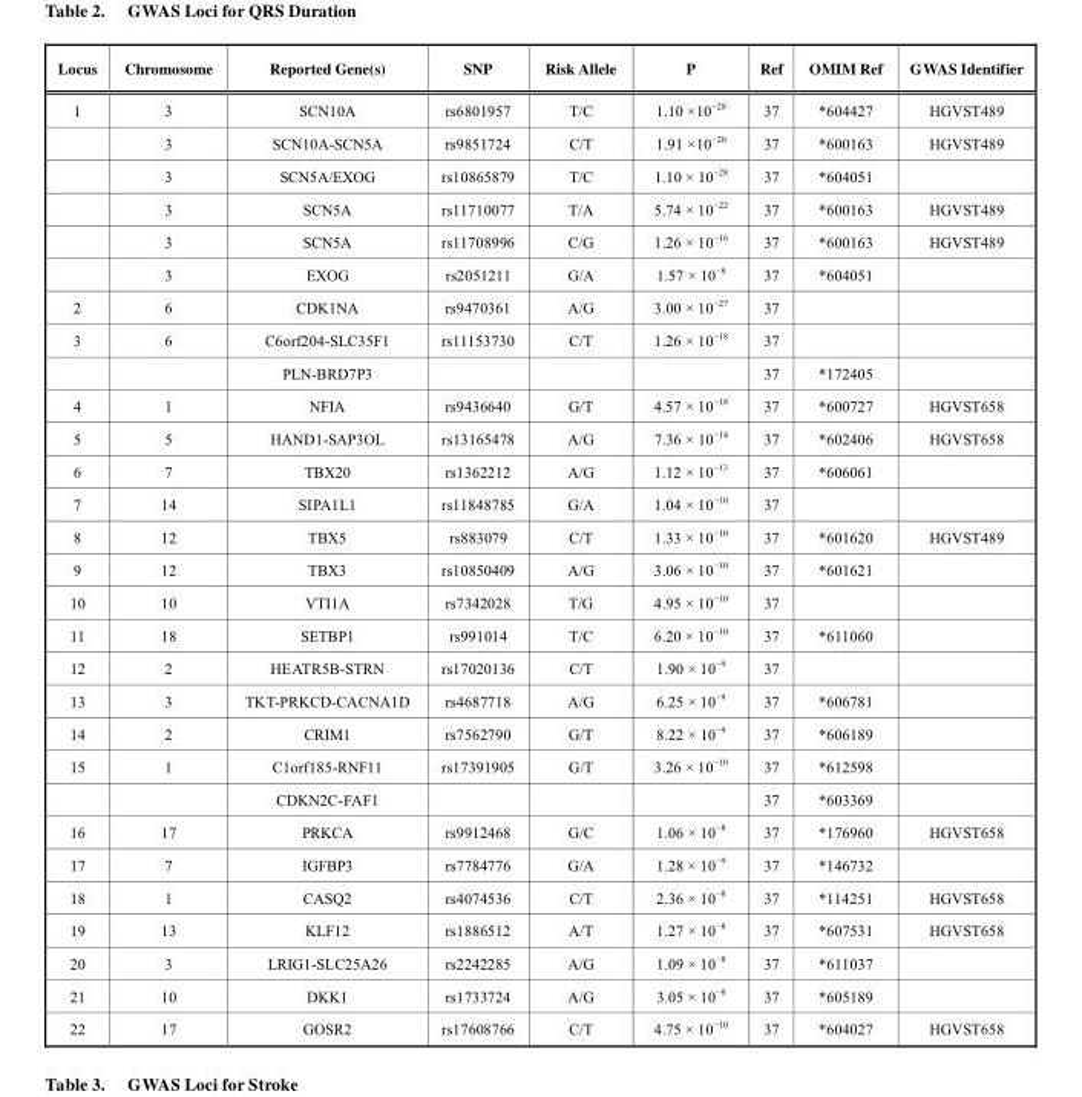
<table><thead><tr><td>Locus</td><td>Chromosome</td><td>Reported Gene(s)</td><td>SNP</td><td>Risk Allele</td><td>P</td><td>Ref</td><td>OMIM Ref</td><td>GWAS Identifier</td></tr></thead><tbody><tr><td rowspan="6">1</td><td>3</td><td>SCN10A</td><td>rs6801957</td><td>T/C</td><td>1.10 ×10<sup>–28</sup></td><td>37</td><td>*604427</td><td>HGVST489</td></tr><tr><td>3</td><td>SCN10A-SCN5A</td><td>rs9851724</td><td>C/T</td><td>1.91 ×10<sup>–20</sup></td><td>37</td><td>*600163</td><td>HGVST489</td></tr><tr><td>3</td><td>SCN5A/EXOG</td><td>rs10865879</td><td>T/C</td><td>1.10 × 10<sup>–28</sup></td><td>37</td><td>*604051</td><td></td></tr><tr><td>3</td><td>SCN5A</td><td>rs11710077</td><td>T/A</td><td>5.74 × 10<sup>–22</sup></td><td>37</td><td>*600163</td><td>HGVST489</td></tr><tr><td>3</td><td>SCN5A</td><td>rs11708996</td><td>C/G</td><td>1.26 × 10<sup>–16</sup></td><td>37</td><td>*600163</td><td>HGVST489</td></tr><tr><td>3</td><td>EXOG</td><td>rs2051211</td><td>G/A</td><td>1.57 × 10<sup>–8</sup></td><td>37</td><td>*604051</td><td></td></tr><tr><td>2</td><td>6</td><td>CDK1NA</td><td>rs9470361</td><td>A/G</td><td>3.00 × 10<sup>–27</sup></td><td>37</td><td></td><td></td></tr><tr><td rowspan="2">3</td><td>6</td><td>C6orf204-SLC35F1</td><td>rs11153730</td><td>C/T</td><td>1.26 × 10<sup>–18</sup></td><td>37</td><td></td><td></td></tr><tr><td></td><td>PLN-BRD7P3</td><td></td><td></td><td></td><td>37</td><td>*172405</td><td></td></tr><tr><td>4</td><td>1</td><td>NFIA</td><td>rs9436640</td><td>G/T</td><td>4.57 × 10<sup>–18</sup></td><td>37</td><td>*600727</td><td>HGVST658</td></tr><tr><td>5</td><td>5</td><td>HAND1-SAP3OL</td><td>rs13165478</td><td>A/G</td><td>7.36 × 10<sup>–14</sup></td><td>37</td><td>*602406</td><td>HGVST658</td></tr><tr><td>6</td><td>7</td><td>TBX20</td><td>rs1362212</td><td>A/G</td><td>1.12 × 10<sup>–13</sup></td><td>37</td><td>*606061</td><td></td></tr><tr><td>7</td><td>14</td><td>SIPA1L1</td><td>rs11848785</td><td>G/A</td><td>1.04 × 10<sup>–10</sup></td><td>37</td><td></td><td></td></tr><tr><td>8</td><td>12</td><td>TBX5</td><td>rs883079</td><td>C/T</td><td>1.33 × 10<sup>–10</sup></td><td>37</td><td>*601620</td><td>HGVST489</td></tr><tr><td>9</td><td>12</td><td>TBX3</td><td>rs10850409</td><td>A/G</td><td>3.06 × 10<sup>–10</sup></td><td>37</td><td>*601621</td><td></td></tr><tr><td>10</td><td>10</td><td>VTI1A</td><td>rs7342028</td><td>T/G</td><td>4.95 × 10<sup>–10</sup></td><td>37</td><td></td><td></td></tr><tr><td>11</td><td>18</td><td>SETBP1</td><td>rs991014</td><td>T/C</td><td>6.20 × 10<sup>–10</sup></td><td>37</td><td>*611060</td><td></td></tr><tr><td>12</td><td>2</td><td>HEATR5B-STRN</td><td>rs17020136</td><td>C/T</td><td>1.90 × 10<sup>–9</sup></td><td>37</td><td></td><td></td></tr><tr><td>13</td><td>3</td><td>TKT-PRKCD-CACNA1D</td><td>rs4687718</td><td>A/G</td><td>6.25 × 10<sup>–9</sup></td><td>37</td><td>*606781</td><td></td></tr><tr><td>14</td><td>2</td><td>CRIM1</td><td>rs7562790</td><td>G/T</td><td>8.22 × 10<sup>–9</sup></td><td>37</td><td>*606189</td><td></td></tr><tr><td rowspan="2">15</td><td>1</td><td>C1orf185-RNF11</td><td>rs17391905</td><td>G/T</td><td>3.26 × 10<sup>–10</sup></td><td>37</td><td>*612598</td><td></td></tr><tr><td></td><td>CDKN2C-FAF1</td><td></td><td></td><td></td><td>37</td><td>*603369</td><td></td></tr><tr><td>16</td><td>17</td><td>PRKCA</td><td>rs9912468</td><td>G/C</td><td>1.06 × 10<sup>–8</sup></td><td>37</td><td>*176960</td><td>HGVST658</td></tr><tr><td>17</td><td>7</td><td>IGFBP3</td><td>rs7784776</td><td>G/A</td><td>1.28 × 10<sup>–9</sup></td><td>37</td><td>*146732</td><td></td></tr><tr><td>18</td><td>1</td><td>CASQ2</td><td>rs4074536</td><td>C/T</td><td>2.36 × 10<sup>–8</sup></td><td>37</td><td>*114251</td><td>HGVST658</td></tr><tr><td>19</td><td>13</td><td>KLF12</td><td>rs1886512</td><td>A/T</td><td>1.27 × 10<sup>–8</sup></td><td>37</td><td>*607531</td><td>HGVST658</td></tr><tr><td>20</td><td>3</td><td>LRIG1-SLC25A26</td><td>rs2242285</td><td>A/G</td><td>1.09 × 10<sup>–8</sup></td><td>37</td><td>*611037</td><td></td></tr><tr><td>21</td><td>10</td><td>DKK1</td><td>rs1733724</td><td>A/G</td><td>3.05 × 10<sup>–8</sup></td><td>37</td><td>*605189</td><td></td></tr><tr><td>22</td><td>17</td><td>GOSR2</td><td>rs17608766</td><td>C/T</td><td>4.75 × 10<sup>–10</sup></td><td>37</td><td>*604027</td><td>HGVST658</td></tr></tbody></table>